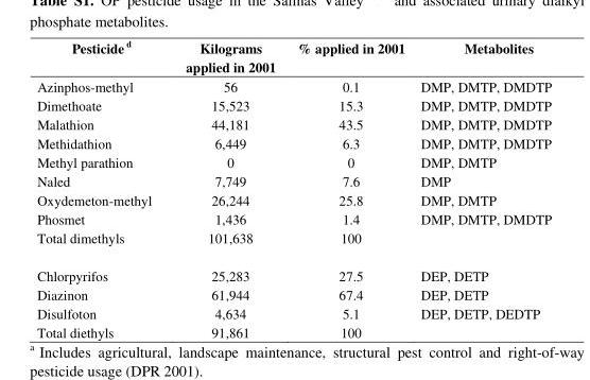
<table><thead><tr><td>Pesticide d</td><td>Kilograms applied in 2001</td><td>% applied in 2001</td><td>Metabolites</td></tr></thead><tbody><tr><td>Azinphos-methyl</td><td>56</td><td>0.1</td><td>DMP, DMTP, DMDTP</td></tr><tr><td>Dimethoate</td><td>15,523</td><td>15.3</td><td>DMP, DMTP, DMDTP</td></tr><tr><td>Malathion</td><td>44,181</td><td>43.5</td><td>DMP, DMTP, DMDTP</td></tr><tr><td>Methidathion</td><td>6,449</td><td>6.3</td><td>DMP, DMTP, DMDTP</td></tr><tr><td>Methyl parathion</td><td>0</td><td>0</td><td>DMP, DMTP</td></tr><tr><td>Naled</td><td>7,749</td><td>7.6</td><td>DMP</td></tr><tr><td>Oxydemeton-methyl</td><td>26,244</td><td>25.8</td><td>DMP, DMTP</td></tr><tr><td>Phosmet</td><td>1,436</td><td>1.4</td><td>DMP, DMTP, DMDTP</td></tr><tr><td>Total dimethyls</td><td>101,638</td><td>100</td><td></td></tr><tr><td>Chlorpyrifos</td><td>25,283</td><td>27.5</td><td>DEP, DETP</td></tr><tr><td>Diazinon</td><td>61,944</td><td>67.4</td><td>DEP, DETP</td></tr><tr><td>Disulfoton</td><td>4,634</td><td>5.1</td><td>DEP, DETP, DEDTP</td></tr><tr><td>Total diethyls</td><td>91,861</td><td>100</td><td></td></tr></tbody></table>